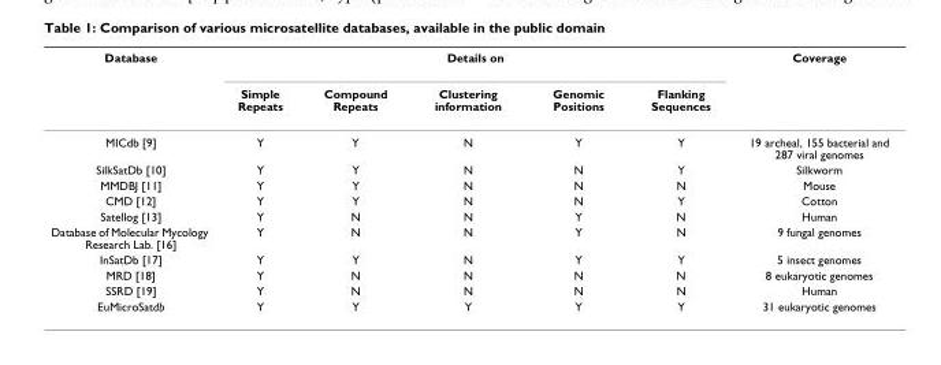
<table><thead><tr><td rowspan="2">Database</td><td colspan="5">Details on</td><td rowspan="2">Coverage</td></tr><tr><td>Simple Repeats</td><td>Compound Repeats</td><td>Clustering information</td><td>Genomic Positions</td><td>Flanking Sequences</td></tr></thead><tbody><tr><td>MICdb [9]</td><td>Y</td><td>Y</td><td>N</td><td>Y</td><td>Y</td><td>19 archeal, 155 bacterial and 287 viral genomes</td></tr><tr><td>SilkSatDb [10]</td><td>Y</td><td>Y</td><td>N</td><td>N</td><td>Y</td><td>Silkworm</td></tr><tr><td>MMDBJ [11]</td><td>Y</td><td>Y</td><td>N</td><td>N</td><td>N</td><td>Mouse</td></tr><tr><td>CMD [12]</td><td>Y</td><td>Y</td><td>N</td><td>N</td><td>Y</td><td>Cotton</td></tr><tr><td>Satellog [13]</td><td>Y</td><td>N</td><td>N</td><td>Y</td><td>N</td><td>Human</td></tr><tr><td>Database of Molecular Mycology Research Lab. [16]</td><td>Y</td><td>N</td><td>N</td><td>Y</td><td>N</td><td>9 fungal genomes</td></tr><tr><td>InSatDb [17]</td><td>Y</td><td>Y</td><td>N</td><td>Y</td><td>Y</td><td>5 insect genomes</td></tr><tr><td>MRD [18]</td><td>Y</td><td>N</td><td>N</td><td>N</td><td>N</td><td>8 eukaryotic genomes</td></tr><tr><td>SSRD [19]</td><td>Y</td><td>N</td><td>N</td><td>N</td><td>N</td><td>Human</td></tr><tr><td>EuMicroSatdb</td><td>Y</td><td>Y</td><td>Y</td><td>Y</td><td>Y</td><td>31 eukaryotic genomes</td></tr></tbody></table>